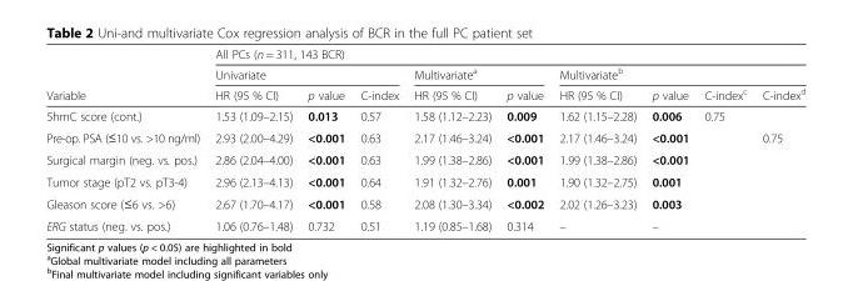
<table><thead><tr><td rowspan="3">Variable</td><td colspan="9">All PCs (n = 311, 143 BCR)</td></tr><tr><td colspan="3">Univariate</td><td colspan="2">Multivariate<sup>a</sup></td><td colspan="4">Multivariate<sup>b</sup></td></tr><tr><td>HR (95 % CI)</td><td>p value</td><td>C-index</td><td>HR (95 % CI)</td><td>p value</td><td>HR (95 % CI)</td><td>p value</td><td>C-index<sup>c</sup></td><td>C-index<sup>d</sup></td></tr></thead><tbody><tr><td>5hmC score (cont.)</td><td>1.53 (1.09–2.15)</td><td>0.013</td><td>0.57</td><td>1.58 (1.12–2.23)</td><td>0.009</td><td>1.62 (1.15–2.28)</td><td>0.006</td><td>0.75</td><td></td></tr><tr><td>Pre-op. PSA (≤10 vs. &gt;10 ng/ml)</td><td>2.93 (2.00–4.29)</td><td>&lt;0.001</td><td>0.63</td><td>2.17 (1.46–3.24)</td><td>&lt;0.001</td><td>2.17 (1.46–3.24)</td><td>&lt;0.001</td><td></td><td>0.75</td></tr><tr><td>Surgical margin (neg. vs. pos.)</td><td>2.86 (2.04–4.00)</td><td>&lt;0.001</td><td>0.63</td><td>1.99 (1.38–2.86)</td><td>&lt;0.001</td><td>1.99 (1.38–2.86)</td><td>&lt;0.001</td><td></td><td></td></tr><tr><td>Tumor stage (pT2 vs. pT3-4)</td><td>2.96 (2.13–4.13)</td><td>&lt;0.001</td><td>0.64</td><td>1.91 (1.32–2.76)</td><td>0.001</td><td>1.90 (1.32–2.75)</td><td>0.001</td><td></td><td></td></tr><tr><td>Gleason score (≤6 vs. &gt;6)</td><td>2.67 (1.70–4.17)</td><td>&lt;0.001</td><td>0.58</td><td>2.08 (1.30–3.34)</td><td>&lt;0.002</td><td>2.02 (1.26–3.23)</td><td>0.003</td><td></td><td></td></tr><tr><td>ERG status (neg. vs. pos.)</td><td>1.06 (0.76–1.48)</td><td>0.732</td><td>0.51</td><td>1.19 (0.85–1.68)</td><td>0.314</td><td>–</td><td>–</td><td></td><td></td></tr></tbody></table>